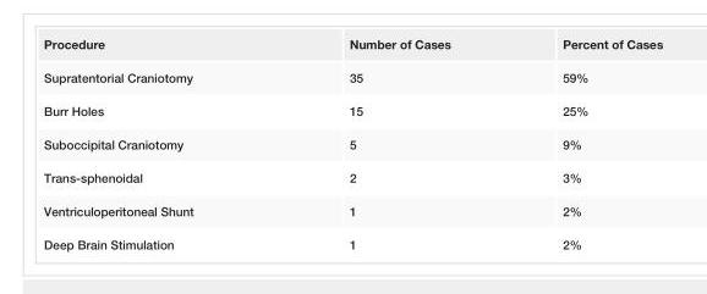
<table><tbody><tr><td>Procedure</td><td>Number of Cases</td><td>Percent of Cases</td></tr><tr><td>Supratentorial Craniotomy</td><td>35</td><td>59%</td></tr><tr><td>Burr Holes</td><td>15</td><td>25%</td></tr><tr><td>Suboccipital Craniotomy</td><td>5</td><td>9%</td></tr><tr><td>Trans-sphenoidal</td><td>2</td><td>3%</td></tr><tr><td>Ventriculoperitoneal Shunt</td><td>1</td><td>2%</td></tr><tr><td>Deep Brain Stimulation</td><td>1</td><td>2%</td></tr></tbody></table>